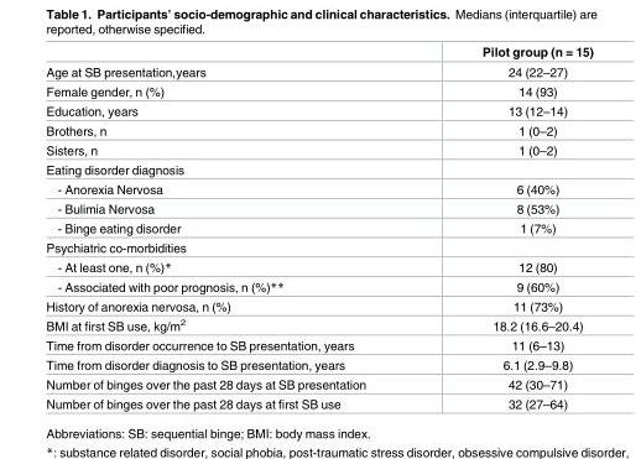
<table><thead><tr><td></td><td>Pilot group (n = 15)</td></tr></thead><tbody><tr><td>Age at SB presentation,years</td><td>24 (22–27)</td></tr><tr><td>Female gender, n (%)</td><td>14 (93)</td></tr><tr><td>Education, years</td><td>13 (12–14)</td></tr><tr><td>Brothers, n</td><td>1 (0–2)</td></tr><tr><td>Sisters, n</td><td>1 (0–2)</td></tr><tr><td colspan="2">Eating disorder diagnosis</td></tr><tr><td>- Anorexia Nervosa</td><td>6 (40%)</td></tr><tr><td>- Bulimia Nervosa</td><td>8 (53%)</td></tr><tr><td>- Binge eating disorder</td><td>1 (7%)</td></tr><tr><td colspan="2">Psychiatric co-morbidities</td></tr><tr><td>- At least one, n (%)*</td><td>12 (80)</td></tr><tr><td>- Associated with poor prognosis, n (%)**</td><td>9 (60%)</td></tr><tr><td>History of anorexia nervosa, n (%)</td><td>11 (73%)</td></tr><tr><td>BMI at first SB use, kg/m<sup>2</sup></td><td>18.2 (16.6–20.4)</td></tr><tr><td>Time from disorder occurrence to SB presentation, years</td><td>11 (6–13)</td></tr><tr><td>Time from disorder diagnosis to SB presentation, years</td><td>6.1 (2.9–9.8)</td></tr><tr><td>Number of binges over the past 28 days at SB presentation</td><td>42 (30–71)</td></tr><tr><td>Number of binges over the past 28 days at first SB use</td><td>32 (27–64)</td></tr></tbody></table>